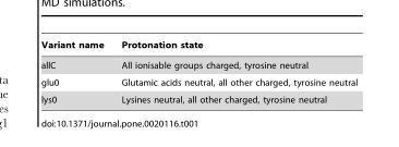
<table><thead><tr><td>Variant name</td><td>Protonation state</td></tr></thead><tbody><tr><td>allC</td><td>All ionisable groups charged, tyrosine neutral</td></tr><tr><td>glu0</td><td>Glutamic acids neutral, all other charged, tyrosine neutral</td></tr><tr><td>lys0</td><td>Lysines neutral, all other charged, tyrosine neutral</td></tr></tbody></table>